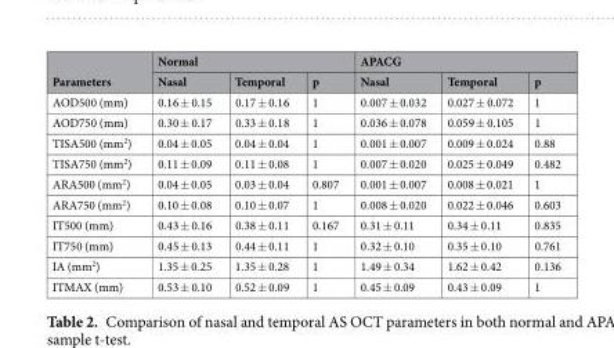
<table><thead><tr><td rowspan="2">Parameters</td><td colspan="3">Normal</td><td colspan="3">APACG</td></tr><tr><td>Nasal</td><td>Temporal</td><td>p</td><td>Nasal</td><td>Temporal</td><td>p</td></tr></thead><tbody><tr><td>AOD500 (mm)</td><td>0.16 ± 0.15</td><td>0.17 ± 0.16</td><td>1</td><td>0.007 ± 0.032</td><td>0.027 ± 0.072</td><td>1</td></tr><tr><td>AOD750 (mm)</td><td>0.30 ± 0.17</td><td>0.33 ± 0.18</td><td>1</td><td>0.036 ± 0.078</td><td>0.059 ± 0.105</td><td>1</td></tr><tr><td>TISA500 (mm<sup>2</sup>)</td><td>0.04 ± 0.05</td><td>0.04 ± 0.04</td><td>1</td><td>0.001 ± 0.007</td><td>0.009 ± 0.024</td><td>0.88</td></tr><tr><td>TISA750 (mm<sup>2</sup>)</td><td>0.11 ± 0.09</td><td>0.11 ± 0.08</td><td>1</td><td>0.007 ± 0.020</td><td>0.025 ± 0.049</td><td>0.482</td></tr><tr><td>ARA500 (mm<sup>2</sup>)</td><td>0.04 ± 0.05</td><td>0.03 ± 0.04</td><td>0.807</td><td>0.001 ± 0.007</td><td>0.008 ± 0.021</td><td>1</td></tr><tr><td>ARA750 (mm<sup>2</sup>)</td><td>0.10 ± 0.08</td><td>0.10 ± 0.07</td><td>1</td><td>0.008 ± 0.020</td><td>0.022 ± 0.046</td><td>0.603</td></tr><tr><td>IT500 (mm)</td><td>0.43 ± 0.16</td><td>0.38 ± 0.11</td><td>0.167</td><td>0.31 ± 0.11</td><td>0.34 ± 0.11</td><td>0.835</td></tr><tr><td>IT750 (mm)</td><td>0.45 ± 0.13</td><td>0.44 ± 0.11</td><td>1</td><td>0.32 ± 0.10</td><td>0.35 ± 0.10</td><td>0.761</td></tr><tr><td>IA (mm<sup>2</sup>)</td><td>1.35 ± 0.25</td><td>1.35 ± 0.28</td><td>1</td><td>1.49 ± 0.34</td><td>1.62 ± 0.42</td><td>0.136</td></tr><tr><td>ITMAX (mm)</td><td>0.53 ± 0.10</td><td>0.52 ± 0.09</td><td>1</td><td>0.45 ± 0.09</td><td>0.43 ± 0.09</td><td>1</td></tr></tbody></table>